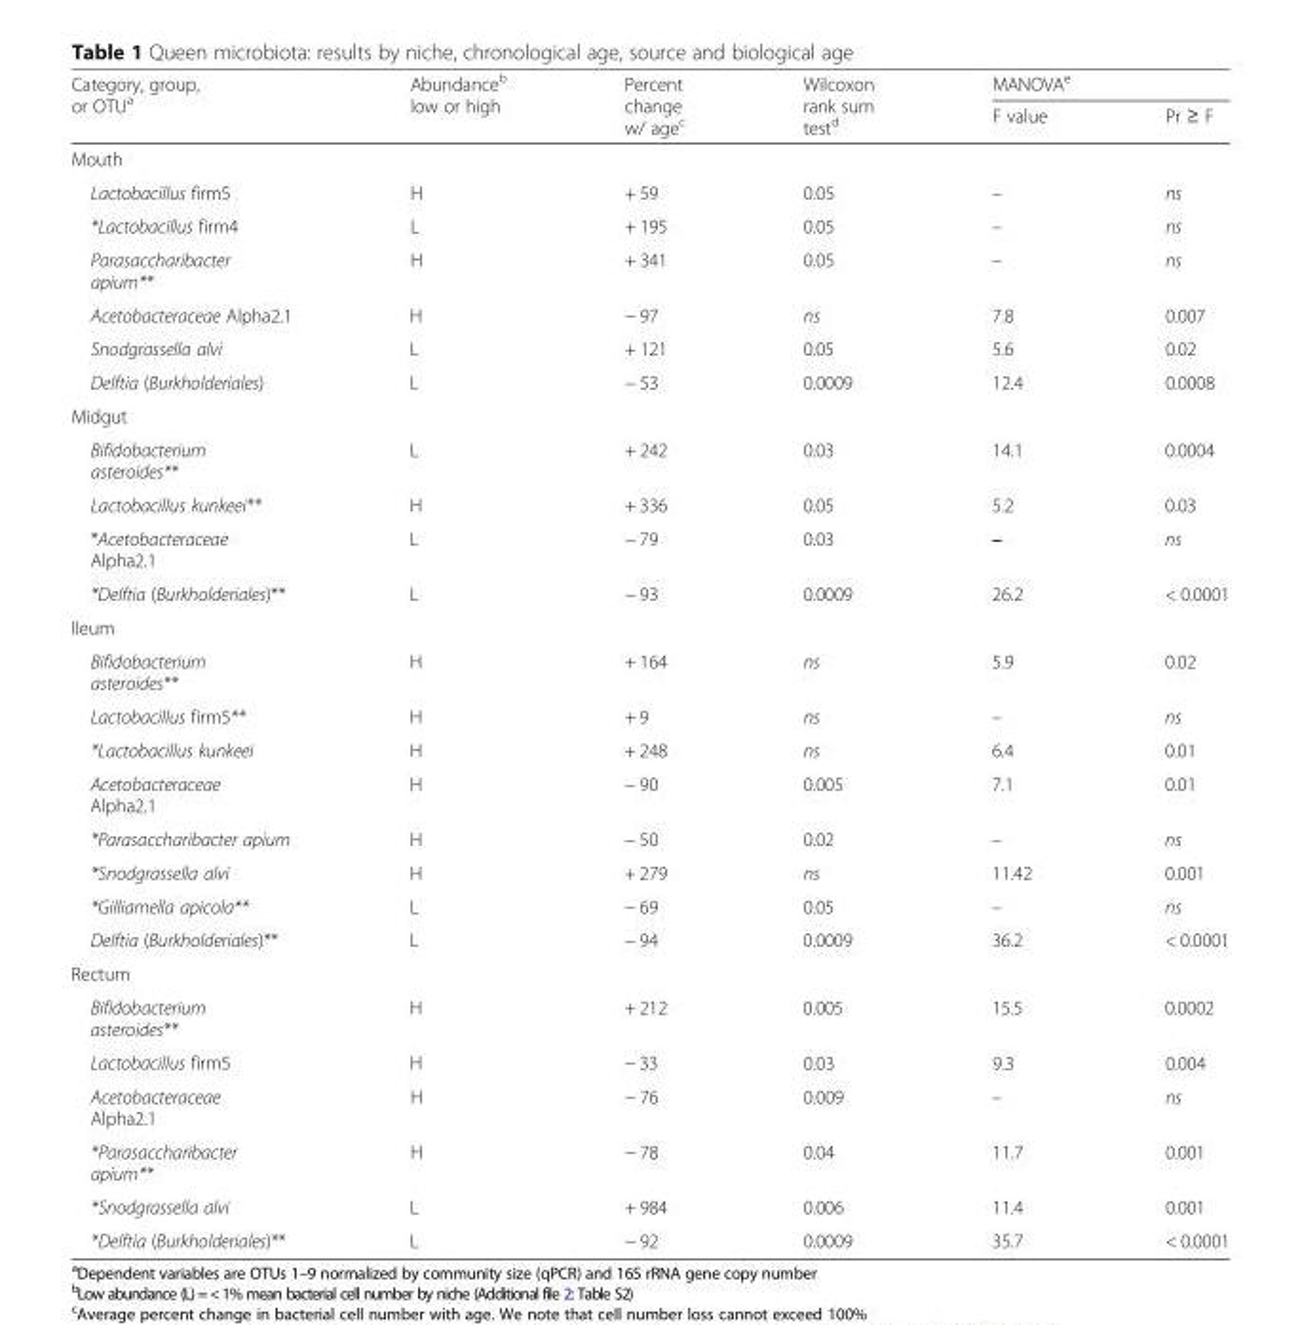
<table><thead><tr><td rowspan="2">Category, group, or OTU<sup>a</sup></td><td rowspan="2">Abundance<sup>b</sup> low or high</td><td rowspan="2">Percent change w/ age<sup>c</sup></td><td rowspan="2">Wilcoxon rank sum test<sup>d</sup></td><td colspan="2">MANOVA<sup>e</sup></td></tr><tr><td>F value</td><td>Pr ≥ F</td></tr></thead><tbody><tr><td colspan="6">Mouth</td></tr><tr><td>Lactobacillus firm5</td><td>H</td><td>+ 59</td><td>0.05</td><td>–</td><td>ns</td></tr><tr><td>*Lactobacillus firm4</td><td>L</td><td>+ 195</td><td>0.05</td><td>–</td><td>ns</td></tr><tr><td>Parasaccharibacter apium**</td><td>H</td><td>+ 341</td><td>0.05</td><td>–</td><td>ns</td></tr><tr><td>Acetobacteraceae Alpha2.1</td><td>H</td><td>− 97</td><td>ns</td><td>7.8</td><td>0.007</td></tr><tr><td>Snodgrassella alvi</td><td>L</td><td>+ 121</td><td>0.05</td><td>5.6</td><td>0.02</td></tr><tr><td>Delftia (Burkholderiales)</td><td>L</td><td>− 53</td><td>0.0009</td><td>12.4</td><td>0.0008</td></tr><tr><td colspan="6">Midgut</td></tr><tr><td>Bifidobacterium asteroides**</td><td>L</td><td>+ 242</td><td>0.03</td><td>14.1</td><td>0.0004</td></tr><tr><td>Lactobacillus kunkeei**</td><td>H</td><td>+ 336</td><td>0.05</td><td>5.2</td><td>0.03</td></tr><tr><td>*Acetobacteraceae Alpha2.1</td><td>L</td><td>− 79</td><td>0.03</td><td>–</td><td>ns</td></tr><tr><td>*Delftia (Burkholderiales)**</td><td>L</td><td>− 93</td><td>0.0009</td><td>26.2</td><td>&lt; 0.0001</td></tr><tr><td colspan="6">Ileum</td></tr><tr><td>Bifidobacterium asteroides**</td><td>H</td><td>+ 164</td><td>ns</td><td>5.9</td><td>0.02</td></tr><tr><td>Lactobacillus firm5**</td><td>H</td><td>+ 9</td><td>ns</td><td>–</td><td>ns</td></tr><tr><td>*Lactobacillus kunkeei</td><td>H</td><td>+ 248</td><td>ns</td><td>6.4</td><td>0.01</td></tr><tr><td>Acetobacteraceae Alpha2.1</td><td>H</td><td>− 90</td><td>0.005</td><td>7.1</td><td>0.01</td></tr><tr><td>*Parasaccharibacter apium</td><td>H</td><td>− 50</td><td>0.02</td><td>–</td><td>ns</td></tr><tr><td>*Snodgrassella alvi</td><td>H</td><td>+ 279</td><td>ns</td><td>11.42</td><td>0.001</td></tr><tr><td>*Gilliamella apicola**</td><td>L</td><td>− 69</td><td>0.05</td><td>–</td><td>ns</td></tr><tr><td>Delftia (Burkholderiales)**</td><td>L</td><td>− 94</td><td>0.0009</td><td>36.2</td><td>&lt; 0.0001</td></tr><tr><td colspan="6">Rectum</td></tr><tr><td>Bifidobacterium asteroides**</td><td>H</td><td>+ 212</td><td>0.005</td><td>15.5</td><td>0.0002</td></tr><tr><td>Lactobacillus firm5</td><td>H</td><td>− 33</td><td>0.03</td><td>9.3</td><td>0.004</td></tr><tr><td>Acetobacteraceae Alpha2.1</td><td>H</td><td>− 76</td><td>0.009</td><td>–</td><td>ns</td></tr><tr><td>*Parasaccharibacter apium**</td><td>H</td><td>− 78</td><td>0.04</td><td>11.7</td><td>0.001</td></tr><tr><td>*Snodgrassella alvi</td><td>L</td><td>+ 984</td><td>0.006</td><td>11.4</td><td>0.001</td></tr><tr><td>*Delftia (Burkholderiales)**</td><td>L</td><td>− 92</td><td>0.0009</td><td>35.7</td><td>&lt; 0.0001</td></tr></tbody></table>